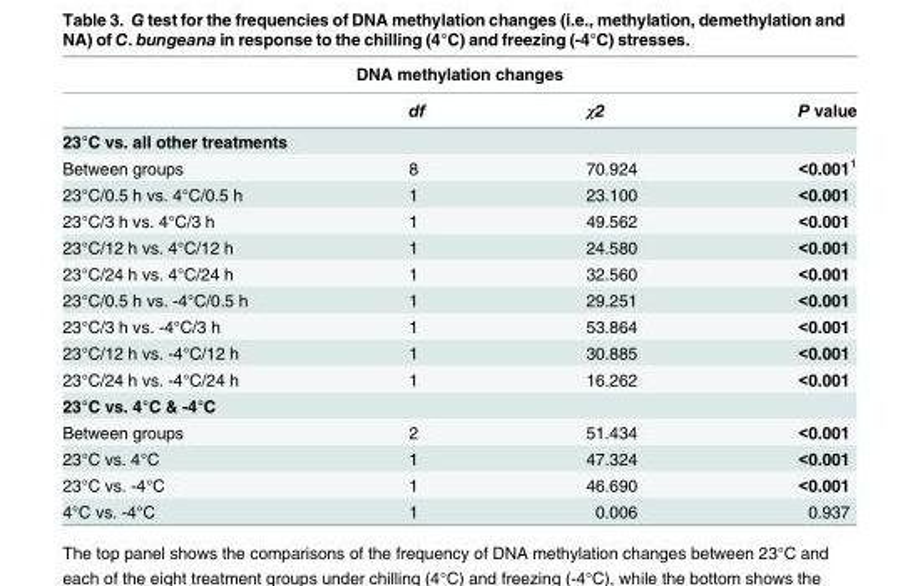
<table><thead><tr><td colspan="4">DNA methylation changes</td></tr><tr><td></td><td>df</td><td>χ2</td><td>P value</td></tr></thead><tbody><tr><td colspan="4">23°C vs. all other treatments</td></tr><tr><td>Between groups</td><td>8</td><td>70.924</td><td>&lt;0.001<sup>1</sup></td></tr><tr><td>23°C/0.5 h vs. 4°C/0.5 h</td><td>1</td><td>23.100</td><td>&lt;0.001</td></tr><tr><td>23°C/3 h vs. 4°C/3 h</td><td>1</td><td>49.562</td><td>&lt;0.001</td></tr><tr><td>23°C/12 h vs. 4°C/12 h</td><td>1</td><td>24.580</td><td>&lt;0.001</td></tr><tr><td>23°C/24 h vs. 4°C/24 h</td><td>1</td><td>32.560</td><td>&lt;0.001</td></tr><tr><td>23°C/0.5 h vs. -4°C/0.5 h</td><td>1</td><td>29.251</td><td>&lt;0.001</td></tr><tr><td>23°C/3 h vs. -4°C/3 h</td><td>1</td><td>53.864</td><td>&lt;0.001</td></tr><tr><td>23°C/12 h vs. -4°C/12 h</td><td>1</td><td>30.885</td><td>&lt;0.001</td></tr><tr><td>23°C/24 h vs. -4°C/24 h</td><td>1</td><td>16.262</td><td>&lt;0.001</td></tr><tr><td colspan="4">23°C vs. 4°C &amp; -4°C</td></tr><tr><td>Between groups</td><td>2</td><td>51.434</td><td>&lt;0.001</td></tr><tr><td>23°C vs. 4°C</td><td>1</td><td>47.324</td><td>&lt;0.001</td></tr><tr><td>23°C vs. -4°C</td><td>1</td><td>46.690</td><td>&lt;0.001</td></tr><tr><td>4°C vs. -4°C</td><td>1</td><td>0.006</td><td>0.937</td></tr></tbody></table>